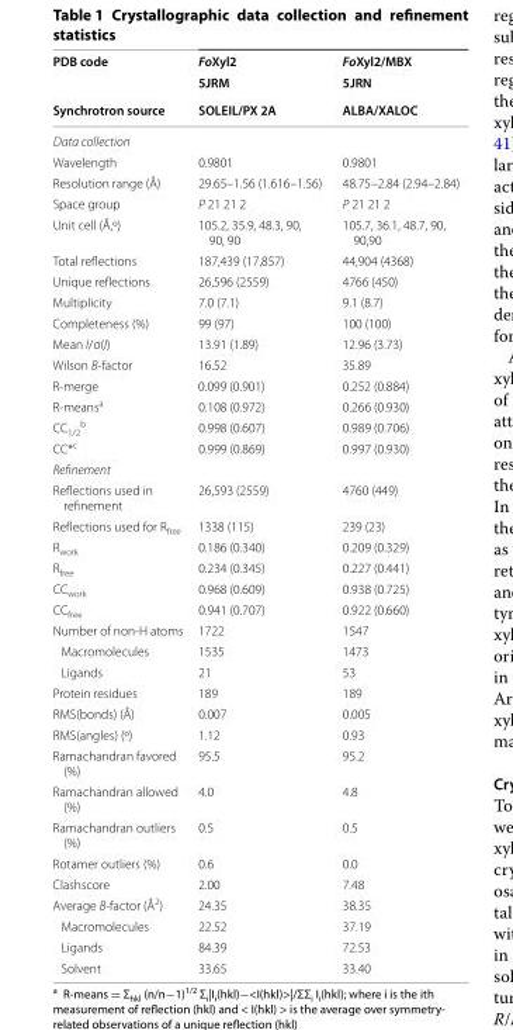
<table><thead><tr><td rowspan="3">PDB code Synchrotron source</td><td rowspan="3">FoXyl2 5JRM SOLEIL/PX 2A</td><td rowspan="3">FoXyl2/MBX 5JRN ALBA/XALOC</td></tr><tr></tr><tr></tr></thead><tbody><tr><td colspan="3">Data collection</td></tr><tr><td>Wavelength</td><td>0.9801</td><td>0.9801</td></tr><tr><td>Resolution range (Å)</td><td>29.65–1.56 (1.616–1.56)</td><td>48.75–2.84 (2.94–2.84)</td></tr><tr><td>Space group</td><td>P 21 21 2</td><td>P 21 21 2</td></tr><tr><td>Unit cell (Å,º)</td><td>105.2, 35.9, 48.3, 90, 90, 90</td><td>105.7, 36.1, 48.7, 90, 90,90</td></tr><tr><td>Total reflections</td><td>187,439 (17,857)</td><td>44,904 (4368)</td></tr><tr><td>Unique reflections</td><td>26,596 (2559)</td><td>4766 (450)</td></tr><tr><td>Multiplicity</td><td>7.0 (7.1)</td><td>9.1 (8.7)</td></tr><tr><td>Completeness (%)</td><td>99 (97)</td><td>100 (100)</td></tr><tr><td>Mean I/σ(I)</td><td>13.91 (1.89)</td><td>12.96 (3.73)</td></tr><tr><td>Wilson B-factor</td><td>16.52</td><td>35.89</td></tr><tr><td>R-merge</td><td>0.099 (0.901)</td><td>0.252 (0.884)</td></tr><tr><td>R-means<sup>a</sup></td><td>0.108 (0.972)</td><td>0.266 (0.930)</td></tr><tr><td>CC<sub>1/2</sub> <sup>b</sup></td><td>0.998 (0.607)</td><td>0.989 (0.706)</td></tr><tr><td>CC*<sup>c</sup></td><td>0.999 (0.869)</td><td>0.997 (0.930)</td></tr><tr><td colspan="3">Refinement</td></tr><tr><td>Reflections used in refinement</td><td>26,593 (2559)</td><td>4760 (449)</td></tr><tr><td>Reflections used for R<sub>free</sub></td><td>1338 (115)</td><td>239 (23)</td></tr><tr><td>R<sub>work</sub></td><td>0.186 (0.340)</td><td>0.209 (0.329)</td></tr><tr><td>R<sub>free</sub></td><td>0.234 (0.345)</td><td>0.227 (0.441)</td></tr><tr><td>CC<sub>work</sub></td><td>0.968 (0.609)</td><td>0.938 (0.725)</td></tr><tr><td>CC<sub>free</sub></td><td>0.941 (0.707)</td><td>0.922 (0.660)</td></tr><tr><td>Number of non-H atoms</td><td>1722</td><td>1547</td></tr><tr><td>Macromolecules</td><td>1535</td><td>1473</td></tr><tr><td>Ligands</td><td>21</td><td>53</td></tr><tr><td>Protein residues</td><td>189</td><td>189</td></tr><tr><td>RMS(bonds) (Å)</td><td>0.007</td><td>0.005</td></tr><tr><td>RMS(angles) (º)</td><td>1.12</td><td>0.93</td></tr><tr><td>Ramachandran favored (%)</td><td>95.5</td><td>95.2</td></tr><tr><td>Ramachandran allowed (%)</td><td>4.0</td><td>4.8</td></tr><tr><td>Ramachandran outliers (%)</td><td>0.5</td><td>0.5</td></tr><tr><td>Rotamer outliers (%)</td><td>0.6</td><td>0.0</td></tr><tr><td>Clashscore</td><td>2.00</td><td>7.48</td></tr><tr><td>Average B-factor (Å<sup>2</sup>)</td><td>24.35</td><td>38.35</td></tr><tr><td>Macromolecules</td><td>22.52</td><td>37.19</td></tr><tr><td>Ligands</td><td>84.39</td><td>72.53</td></tr><tr><td>Solvent</td><td>33.65</td><td>33.40</td></tr></tbody></table>